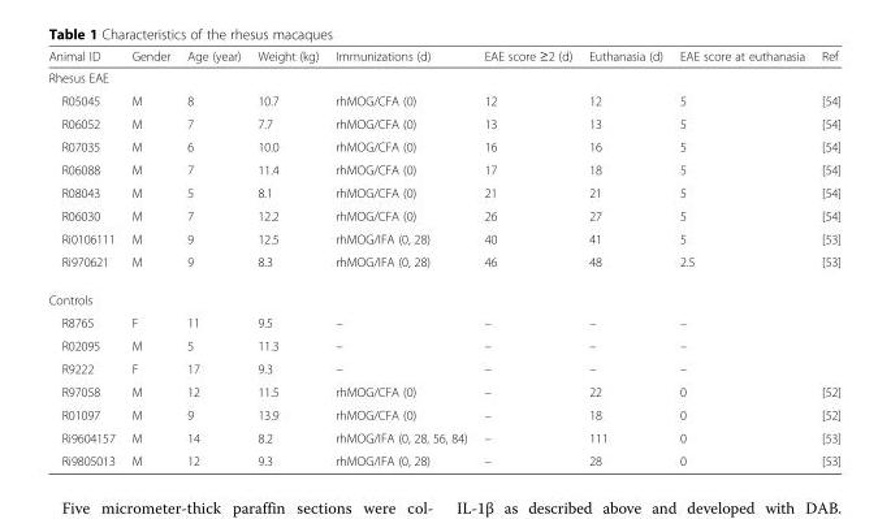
<table><thead><tr><td>Animal ID</td><td>Gender</td><td>Age (year)</td><td>Weight (kg)</td><td>Immunizations (d)</td><td>EAE score ≥2 (d)</td><td>Euthanasia (d)</td><td>EAE score at euthanasia</td><td>Ref</td></tr></thead><tbody><tr><td colspan="9">Rhesus EAE</td></tr><tr><td>R05045</td><td>M</td><td>8</td><td>10.7</td><td>rhMOG/CFA (0)</td><td>12</td><td>12</td><td>5</td><td>[54]</td></tr><tr><td>R06052</td><td>M</td><td>7</td><td>7.7</td><td>rhMOG/CFA (0)</td><td>13</td><td>13</td><td>5</td><td>[54]</td></tr><tr><td>R07035</td><td>M</td><td>6</td><td>10.0</td><td>rhMOG/CFA (0)</td><td>16</td><td>16</td><td>5</td><td>[54]</td></tr><tr><td>R06088</td><td>M</td><td>7</td><td>11.4</td><td>rhMOG/CFA (0)</td><td>17</td><td>18</td><td>5</td><td>[54]</td></tr><tr><td>R08043</td><td>M</td><td>5</td><td>8.1</td><td>rhMOG/CFA (0)</td><td>21</td><td>21</td><td>5</td><td>[54]</td></tr><tr><td>R06030</td><td>M</td><td>7</td><td>12.2</td><td>rhMOG/CFA (0)</td><td>26</td><td>27</td><td>5</td><td>[54]</td></tr><tr><td>Ri0106111</td><td>M</td><td>9</td><td>12.5</td><td>rhMOG/IFA (0, 28)</td><td>40</td><td>41</td><td>5</td><td>[53]</td></tr><tr><td>Ri970621</td><td>M</td><td>9</td><td>8.3</td><td>rhMOG/IFA (0, 28)</td><td>46</td><td>48</td><td>2.5</td><td>[53]</td></tr><tr><td colspan="9">Controls</td></tr><tr><td>R8765</td><td>F</td><td>11</td><td>9.5</td><td>–</td><td>–</td><td>–</td><td>–</td><td></td></tr><tr><td>R02095</td><td>M</td><td>5</td><td>11.3</td><td>–</td><td>–</td><td>–</td><td>–</td><td></td></tr><tr><td>R9222</td><td>F</td><td>17</td><td>9.3</td><td>–</td><td>–</td><td>–</td><td>–</td><td></td></tr><tr><td>R97058</td><td>M</td><td>12</td><td>11.5</td><td>rhMOG/CFA (0)</td><td>–</td><td>22</td><td>0</td><td>[52]</td></tr><tr><td>R01097</td><td>M</td><td>9</td><td>13.9</td><td>rhMOG/CFA (0)</td><td>–</td><td>18</td><td>0</td><td>[52]</td></tr><tr><td>Ri9604157</td><td>M</td><td>14</td><td>8.2</td><td>rhMOG/IFA (0, 28, 56, 84)</td><td>–</td><td>111</td><td>0</td><td>[53]</td></tr><tr><td>Ri9805013</td><td>M</td><td>12</td><td>9.3</td><td>rhMOG/IFA (0, 28)</td><td>–</td><td>28</td><td>0</td><td>[53]</td></tr></tbody></table>